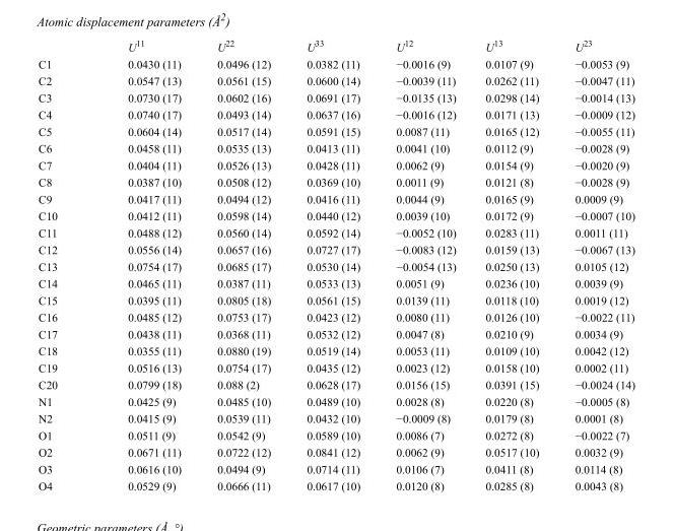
<table><thead><tr><td></td><td>U<sup>11</sup></td><td>U<sup>22</sup></td><td>U<sup>33</sup></td><td>U<sup>12</sup></td><td>U<sup>13</sup></td><td>U<sup>23</sup></td></tr></thead><tbody><tr><td>C1</td><td>0.0430 (11)</td><td>0.0496 (12)</td><td>0.0382 (11)</td><td>−0.0016 (9)</td><td>0.0107 (9)</td><td>−0.0053 (9)</td></tr><tr><td>C2</td><td>0.0547 (13)</td><td>0.0561 (15)</td><td>0.0600 (14)</td><td>−0.0039 (11)</td><td>0.0262 (11)</td><td>−0.0047 (11)</td></tr><tr><td>C3</td><td>0.0730 (17)</td><td>0.0602 (16)</td><td>0.0691 (17)</td><td>−0.0135 (13)</td><td>0.0298 (14)</td><td>−0.0014 (13)</td></tr><tr><td>C4</td><td>0.0740 (17)</td><td>0.0493 (14)</td><td>0.0637 (16)</td><td>−0.0016 (12)</td><td>0.0171 (13)</td><td>−0.0009 (12)</td></tr><tr><td>C5</td><td>0.0604 (14)</td><td>0.0517 (14)</td><td>0.0591 (15)</td><td>0.0087 (11)</td><td>0.0165 (12)</td><td>−0.0055 (11)</td></tr><tr><td>C6</td><td>0.0458 (11)</td><td>0.0535 (13)</td><td>0.0413 (11)</td><td>0.0041 (10)</td><td>0.0112 (9)</td><td>−0.0028 (9)</td></tr><tr><td>C7</td><td>0.0404 (11)</td><td>0.0526 (13)</td><td>0.0428 (11)</td><td>0.0062 (9)</td><td>0.0154 (9)</td><td>−0.0020 (9)</td></tr><tr><td>C8</td><td>0.0387 (10)</td><td>0.0508 (12)</td><td>0.0369 (10)</td><td>0.0011 (9)</td><td>0.0121 (8)</td><td>−0.0028 (9)</td></tr><tr><td>C9</td><td>0.0417 (11)</td><td>0.0494 (12)</td><td>0.0416 (11)</td><td>0.0044 (9)</td><td>0.0165 (9)</td><td>0.0009 (9)</td></tr><tr><td>C10</td><td>0.0412 (11)</td><td>0.0598 (14)</td><td>0.0440 (12)</td><td>0.0039 (10)</td><td>0.0172 (9)</td><td>−0.0007 (10)</td></tr><tr><td>C11</td><td>0.0488 (12)</td><td>0.0560 (14)</td><td>0.0592 (14)</td><td>−0.0052 (10)</td><td>0.0283 (11)</td><td>0.0011 (11)</td></tr><tr><td>C12</td><td>0.0556 (14)</td><td>0.0657 (16)</td><td>0.0727 (17)</td><td>−0.0083 (12)</td><td>0.0159 (13)</td><td>−0.0067 (13)</td></tr><tr><td>C13</td><td>0.0754 (17)</td><td>0.0685 (17)</td><td>0.0530 (14)</td><td>−0.0054 (13)</td><td>0.0250 (13)</td><td>0.0105 (12)</td></tr><tr><td>C14</td><td>0.0465 (11)</td><td>0.0387 (11)</td><td>0.0533 (13)</td><td>0.0051 (9)</td><td>0.0236 (10)</td><td>0.0039 (9)</td></tr><tr><td>C15</td><td>0.0395 (11)</td><td>0.0805 (18)</td><td>0.0561 (15)</td><td>0.0139 (11)</td><td>0.0118 (10)</td><td>0.0019 (12)</td></tr><tr><td>C16</td><td>0.0485 (12)</td><td>0.0753 (17)</td><td>0.0423 (12)</td><td>0.0080 (11)</td><td>0.0126 (10)</td><td>−0.0022 (11)</td></tr><tr><td>C17</td><td>0.0438 (11)</td><td>0.0368 (11)</td><td>0.0532 (12)</td><td>0.0047 (8)</td><td>0.0210 (9)</td><td>0.0034 (9)</td></tr><tr><td>C18</td><td>0.0355 (11)</td><td>0.0880 (19)</td><td>0.0519 (14)</td><td>0.0053 (11)</td><td>0.0109 (10)</td><td>0.0042 (12)</td></tr><tr><td>C19</td><td>0.0516 (13)</td><td>0.0754 (17)</td><td>0.0435 (12)</td><td>0.0023 (12)</td><td>0.0158 (10)</td><td>0.0002 (11)</td></tr><tr><td>C20</td><td>0.0799 (18)</td><td>0.088 (2)</td><td>0.0628 (17)</td><td>0.0156 (15)</td><td>0.0391 (15)</td><td>−0.0024 (14)</td></tr><tr><td>N1</td><td>0.0425 (9)</td><td>0.0485 (10)</td><td>0.0489 (10)</td><td>0.0028 (8)</td><td>0.0220 (8)</td><td>−0.0005 (8)</td></tr><tr><td>N2</td><td>0.0415 (9)</td><td>0.0539 (11)</td><td>0.0432 (10)</td><td>−0.0009 (8)</td><td>0.0179 (8)</td><td>0.0001 (8)</td></tr><tr><td>O1</td><td>0.0511 (9)</td><td>0.0542 (9)</td><td>0.0589 (10)</td><td>0.0086 (7)</td><td>0.0272 (8)</td><td>−0.0022 (7)</td></tr><tr><td>O2</td><td>0.0671 (11)</td><td>0.0722 (12)</td><td>0.0841 (12)</td><td>0.0062 (9)</td><td>0.0517 (10)</td><td>0.0032 (9)</td></tr><tr><td>O3</td><td>0.0616 (10)</td><td>0.0494 (9)</td><td>0.0714 (11)</td><td>0.0106 (7)</td><td>0.0411 (8)</td><td>0.0114 (8)</td></tr><tr><td>O4</td><td>0.0529 (9)</td><td>0.0666 (11)</td><td>0.0617 (10)</td><td>0.0120 (8)</td><td>0.0285 (8)</td><td>0.0043 (8)</td></tr></tbody></table>